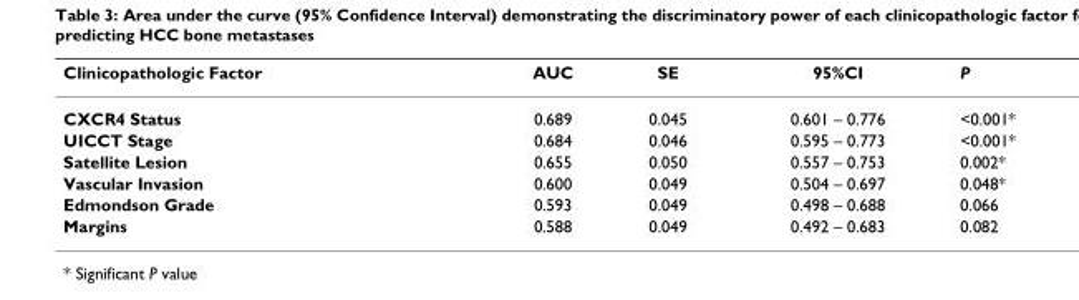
<table><thead><tr><td>Clinicopathologic Factor</td><td>AUC</td><td>SE</td><td>95%CI</td><td>P</td></tr></thead><tbody><tr><td>CXCR4 Status</td><td>0.689</td><td>0.045</td><td>0.601 – 0.776</td><td>&lt;0.001*</td></tr><tr><td>UICCT Stage</td><td>0.684</td><td>0.046</td><td>0.595 – 0.773</td><td>&lt;0.001*</td></tr><tr><td>Satellite Lesion</td><td>0.655</td><td>0.050</td><td>0.557 – 0.753</td><td>0.002*</td></tr><tr><td>Vascular Invasion</td><td>0.600</td><td>0.049</td><td>0.504 – 0.697</td><td>0.048*</td></tr><tr><td>Edmondson Grade</td><td>0.593</td><td>0.049</td><td>0.498 – 0.688</td><td>0.066</td></tr><tr><td>Margins</td><td>0.588</td><td>0.049</td><td>0.492 – 0.683</td><td>0.082</td></tr></tbody></table>